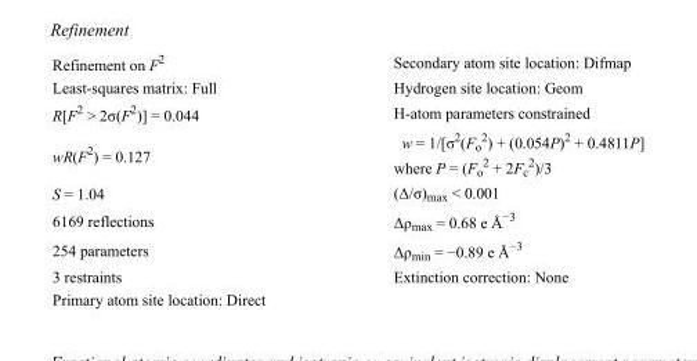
<table><tbody><tr><td>Refinement on F<sup>2</sup></td><td>Secondary atom site location: Difmap</td></tr><tr><td>Least-squares matrix: Full</td><td>Hydrogen site location: Geom</td></tr><tr><td>R[F<sup>2</sup> &gt; 2σ(F<sup>2</sup>)] = 0.044</td><td>H-atom parameters constrained</td></tr><tr><td>wR(F<sup>2</sup>) = 0.127</td><td>w = 1/[σ<sup>2</sup>(F<sub>o</sub> <sup>2</sup>) + (0.054P)<sup>2</sup> + 0.4811P] where P = (F<sub>o</sub> <sup>2</sup> + 2F<sub>c</sub> <sup>2</sup>)/3</td></tr><tr><td>S = 1.04</td><td>(Δ/σ)<sub>max</sub> &lt; 0.001</td></tr><tr><td>6169 reflections</td><td>Δρ<sub>max</sub> = 0.68 e Å<sup>−3</sup></td></tr><tr><td>254 parameters</td><td>Δρ<sub>min</sub> = −0.89 e Å<sup>−3</sup></td></tr><tr><td>3 restraints</td><td>Extinction correction: None</td></tr><tr><td>Primary atom site location: Direct</td><td></td></tr></tbody></table>